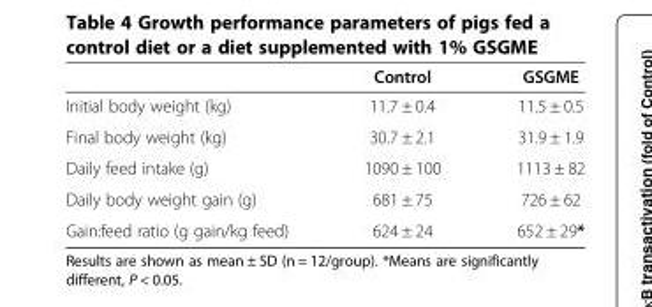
<table><thead><tr><td></td><td>Control</td><td>GSGME</td></tr></thead><tbody><tr><td>Initial body weight (kg)</td><td>11.7 ± 0.4</td><td>11.5 ± 0.5</td></tr><tr><td>Final body weight (kg)</td><td>30.7 ± 2.1</td><td>31.9 ± 1.9</td></tr><tr><td>Daily feed intake (g)</td><td>1090 ± 100</td><td>1113 ± 82</td></tr><tr><td>Daily body weight gain (g)</td><td>681 ± 75</td><td>726 ± 62</td></tr><tr><td>Gain:feed ratio (g gain/kg feed)</td><td>624 ± 24</td><td>652 ± 29*</td></tr></tbody></table>